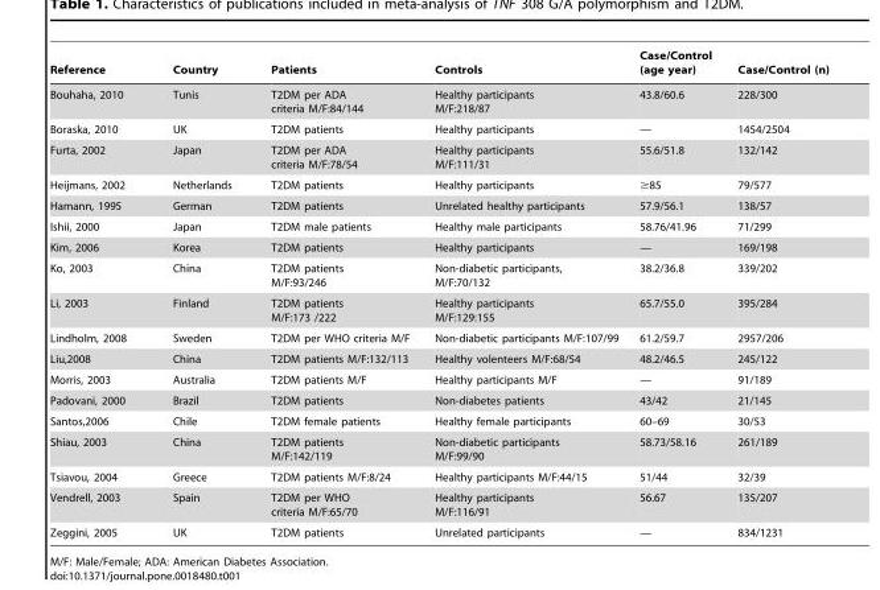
<table><thead><tr><td>Reference</td><td>Country</td><td>Patients</td><td>Controls</td><td>Case/Control (age year)</td><td>Case/Control (n)</td></tr></thead><tbody><tr><td>Bouhaha, 2010</td><td>Tunis</td><td>T2DM per ADA criteria M/F:84/144</td><td>Healthy participants M/F:218/87</td><td>43.8/60.6</td><td>228/300</td></tr><tr><td>Boraska, 2010</td><td>UK</td><td>T2DM patients</td><td>Healthy participants</td><td>—</td><td>1454/2504</td></tr><tr><td>Furta, 2002</td><td>Japan</td><td>T2DM per ADA criteria M/F:78/54</td><td>Healthy participants M/F:111/31</td><td>55.6/51.8</td><td>132/142</td></tr><tr><td>Heijmans, 2002</td><td>Netherlands</td><td>T2DM patients</td><td>Healthy participants</td><td>≥85</td><td>79/577</td></tr><tr><td>Hamann, 1995</td><td>German</td><td>T2DM patients</td><td>Unrelated healthy participants</td><td>57.9/56.1</td><td>138/57</td></tr><tr><td>Ishii, 2000</td><td>Japan</td><td>T2DM male patients</td><td>Healthy male participants</td><td>58.76/41.96</td><td>71/299</td></tr><tr><td>Kim, 2006</td><td>Korea</td><td>T2DM patients</td><td>Healthy participants</td><td>—</td><td>169/198</td></tr><tr><td>Ko, 2003</td><td>China</td><td>T2DM patients M/F:93/246</td><td>Non-diabetic participants, M/F:70/132</td><td>38.2/36.8</td><td>339/202</td></tr><tr><td>Li, 2003</td><td>Finland</td><td>T2DM patients M/F:173 /222</td><td>Healthy participants M/F:129:155</td><td>65.7/55.0</td><td>395/284</td></tr><tr><td>Lindholm, 2008</td><td>Sweden</td><td>T2DM per WHO criteria M/F</td><td>Non-diabetic participants M/F:107/99</td><td>61.2/59.7</td><td>2957/206</td></tr><tr><td>Liu,2008</td><td>China</td><td>T2DM patients M/F:132/113</td><td>Healthy volenteers M/F:68/54</td><td>48.2/46.5</td><td>245/122</td></tr><tr><td>Morris, 2003</td><td>Australia</td><td>T2DM patients M/F</td><td>Healthy participants M/F</td><td>—</td><td>91/189</td></tr><tr><td>Padovani, 2000</td><td>Brazil</td><td>T2DM patients</td><td>Non-diabetes patients</td><td>43/42</td><td>21/145</td></tr><tr><td>Santos,2006</td><td>Chile</td><td>T2DM female patients</td><td>Healthy female participants</td><td>60–69</td><td>30/53</td></tr><tr><td>Shiau, 2003</td><td>China</td><td>T2DM patients M/F:142/119</td><td>Non-diabetic participants M/F:99/90</td><td>58.73/58.16</td><td>261/189</td></tr><tr><td>Tsiavou, 2004</td><td>Greece</td><td>T2DM patients M/F:8/24</td><td>Healthy participants M/F:44/15</td><td>51/44</td><td>32/39</td></tr><tr><td>Vendrell, 2003</td><td>Spain</td><td>T2DM per WHO criteria M/F:65/70</td><td>Healthy participants M/F:116/91</td><td>56.67</td><td>135/207</td></tr><tr><td>Zeggini, 2005</td><td>UK</td><td>T2DM patients</td><td>Unrelated participants</td><td>—</td><td>834/1231</td></tr></tbody></table>